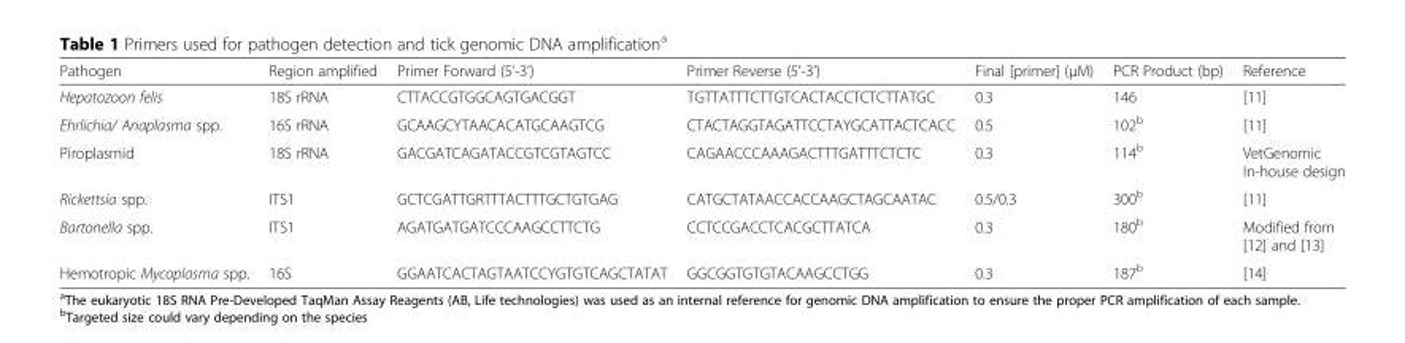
<table><thead><tr><td>Pathogen</td><td>Region amplified</td><td>Primer Forward (5’-3’)</td><td>Primer Reverse (5’-3’)</td><td>Final [primer] (μM)</td><td>PCR Product (bp)</td><td>Reference</td></tr></thead><tbody><tr><td>Hepatozoon felis</td><td>18S rRNA</td><td>CTTACCGTGGCAGTGACGGT</td><td>TGTTATTTCTTGTCACTACCTCTCTTATGC</td><td>0.3</td><td>146</td><td>[11]</td></tr><tr><td>Ehrlichia/ Anaplasma spp.</td><td>16S rRNA</td><td>GCAAGCYTAACACATGCAAGTCG</td><td>CTACTAGGTAGATTCCTAYGCATTACTCACC</td><td>0.5</td><td>102<sup>b</sup></td><td>[11]</td></tr><tr><td>Piroplasmid</td><td>18S rRNA</td><td>GACGATCAGATACCGTCGTAGTCC</td><td>CAGAACCCAAAGACTTTGATTTCTCTC</td><td>0.3</td><td>114<sup>b</sup></td><td>VetGenomic In-house design</td></tr><tr><td>Rickettsia spp.</td><td>ITS1</td><td>GCTCGATTGRTTTACTTTGCTGTGAG</td><td>CATGCTATAACCACCAAGCTAGCAATAC</td><td>0.5/0.3</td><td>300<sup>b</sup></td><td>[11]</td></tr><tr><td>Bartonella spp.</td><td>ITS1</td><td>AGATGATGATCCCAAGCCTTCTG</td><td>CCTCCGACCTCACGCTTATCA</td><td>0.3</td><td>180<sup>b</sup></td><td>Modified from [12] and [13]</td></tr><tr><td>Hemotropic Mycoplasma spp.</td><td>16S</td><td>GGAATCACTAGTAATCCYGTGTCAGCTATAT</td><td>GGCGGTGTGTACAAGCCTGG</td><td>0.3</td><td>187<sup>b</sup></td><td>[14]</td></tr></tbody></table>